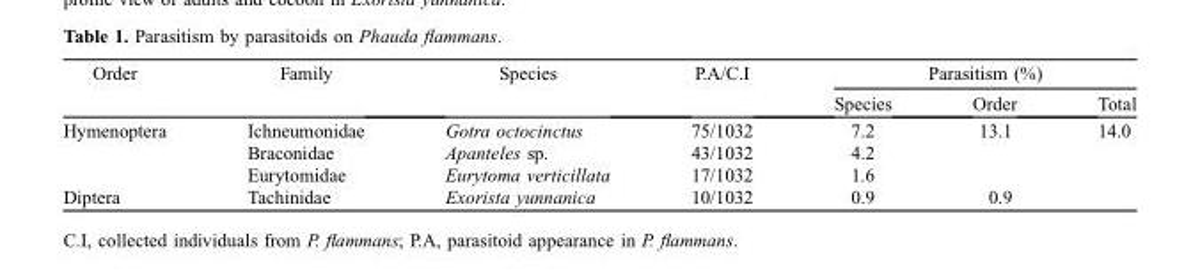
<table><thead><tr><td rowspan="2">Order</td><td rowspan="2">Family</td><td rowspan="2">Species</td><td rowspan="2">P.A/C.I</td><td colspan="3">Parasitism (%)</td></tr><tr><td>Species</td><td>Order</td><td>Total</td></tr></thead><tbody><tr><td rowspan="3">Hymenoptera</td><td>Ichneumonidae</td><td>Gotra octocinctus</td><td>75/1032</td><td>7.2</td><td>13.1</td><td>14.0</td></tr><tr><td>Braconidae</td><td>Apanteles sp.</td><td>43/1032</td><td>4.2</td><td></td><td></td></tr><tr><td>Eurytomidae</td><td>Eurytoma verticillata</td><td>17/1032</td><td>1.6</td><td></td><td></td></tr><tr><td>Diptera</td><td>Tachinidae</td><td>Exorista yunnanica</td><td>10/1032</td><td>0.9</td><td>0.9</td><td></td></tr></tbody></table>